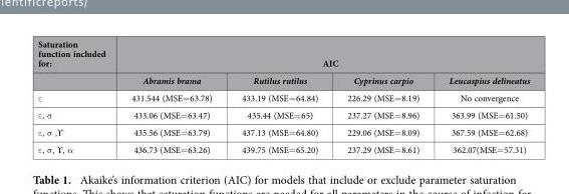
<table><thead><tr><td rowspan="2">Saturation function included for:</td><td colspan="4">AIC</td></tr><tr><td>Abramis brama</td><td>Rutilus rutilus</td><td>Cyprinus carpio</td><td>Leucaspius delineatus</td></tr></thead><tbody><tr><td>ε</td><td>431.544 (MSE= 63.78)</td><td>433.19 (MSE= 64.84)</td><td>226.29 (MSE= 8.19)</td><td>No convergence</td></tr><tr><td>ε , σ</td><td>433.06 (MSE= 63.47)</td><td>435.44 (MSE= 65)</td><td>237.27 (MSE= 8.96)</td><td>363.99 (MSE= 61.50)</td></tr><tr><td>ε , σ ,°</td><td>435.56 (MSE= 63.79)</td><td>437.13 (MSE= 64.80)</td><td>229.06 (MSE= 8.09)</td><td>367.59 (MSE= 62.68)</td></tr><tr><td>ε , σ , °, α</td><td>436.73 (MSE= 63.26)</td><td>439.75 (MSE= 65.20)</td><td>237.29 (MSE= 8.61)</td><td>362.07(MSE= 57.31)</td></tr></tbody></table>